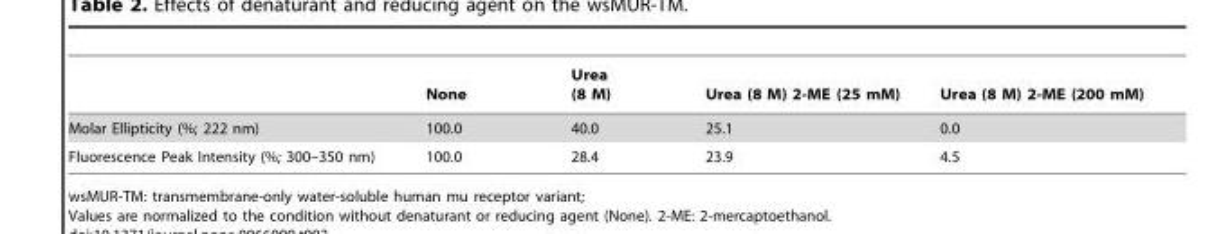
<table><thead><tr><td></td><td>None</td><td>Urea (8 M)</td><td>Urea (8 M) 2-ME (25 mM)</td><td>Urea (8 M) 2-ME (200 mM)</td></tr></thead><tbody><tr><td>Molar Ellipticity (%; 222 nm)</td><td>100.0</td><td>40.0</td><td>25.1</td><td>0.0</td></tr><tr><td>Fluorescence Peak Intensity (%; 300–350 nm)</td><td>100.0</td><td>28.4</td><td>23.9</td><td>4.5</td></tr></tbody></table>